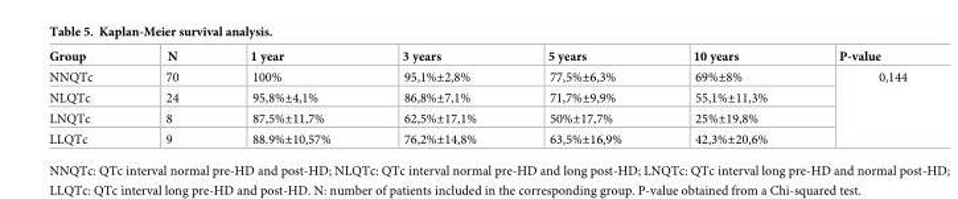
<table><thead><tr><td>Group</td><td>N</td><td>1 year</td><td>3 years</td><td>5 years</td><td>10 years</td><td>P-value</td></tr></thead><tbody><tr><td>NNQTc</td><td>70</td><td>100%</td><td>95,1%±2,8%</td><td>77,5%±6,3%</td><td>69%±8%</td><td rowspan="4">0,144</td></tr><tr><td>NLQTc</td><td>24</td><td>95,8%±4,1%</td><td>86,8%±7,1%</td><td>71,7%±9,9%</td><td>55,1%±11,3%</td></tr><tr><td>LNQTc</td><td>8</td><td>87,5%±11,7%</td><td>62,5%±17,1%</td><td>50%±17,7%</td><td>25%±19,8%</td></tr><tr><td>LLQTc</td><td>9</td><td>88.9%±10,57%</td><td>76,2%±14,8%</td><td>63,5%±16,9%</td><td>42,3%±20,6%</td></tr></tbody></table>